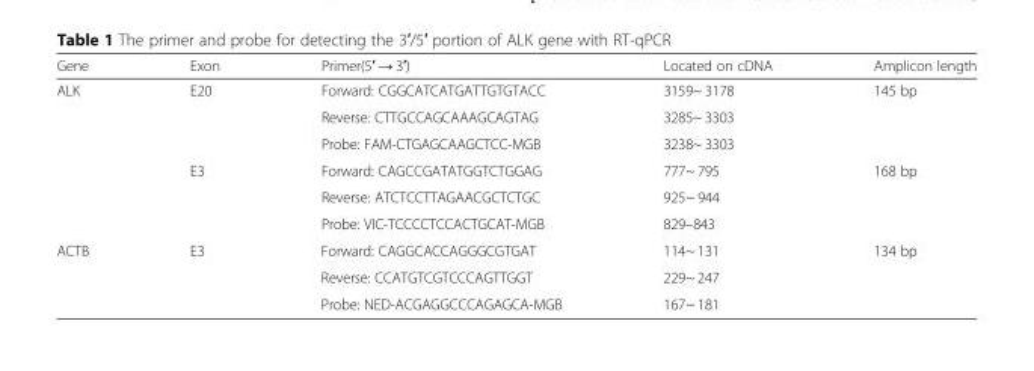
<table><thead><tr><td>Gene</td><td>Exon</td><td>Primer(5′ → 3′)</td><td>Located on cDNA</td><td>Amplicon length</td></tr></thead><tbody><tr><td rowspan="6">ALK</td><td rowspan="3">E20</td><td>Forward: CGGCATCATGATTGTGTACC</td><td>3159~ 3178</td><td rowspan="3">145 bp</td></tr><tr><td>Reverse: CTTGCCAGCAAAGCAGTAG</td><td>3285~ 3303</td></tr><tr><td>Probe: FAM-CTGAGCAAGCTCC-MGB</td><td>3238~ 3303</td></tr><tr><td rowspan="3">E3</td><td>Forward: CAGCCGATATGGTCTGGAG</td><td>777~ 795</td><td rowspan="3">168 bp</td></tr><tr><td>Reverse: ATCTCCTTAGAACGCTCTGC</td><td>925~ 944</td></tr><tr><td>Probe: VIC-TCCCCTCCACTGCAT-MGB</td><td>829–843</td></tr><tr><td rowspan="3">ACTB</td><td rowspan="3">E3</td><td>Forward: CAGGCACCAGGGCGTGAT</td><td>114~ 131</td><td rowspan="3">134 bp</td></tr><tr><td>Reverse: CCATGTCGTCCCAGTTGGT</td><td>229~ 247</td></tr><tr><td>Probe: NED-ACGAGGCCCAGAGCA-MGB</td><td>167~ 181</td></tr></tbody></table>